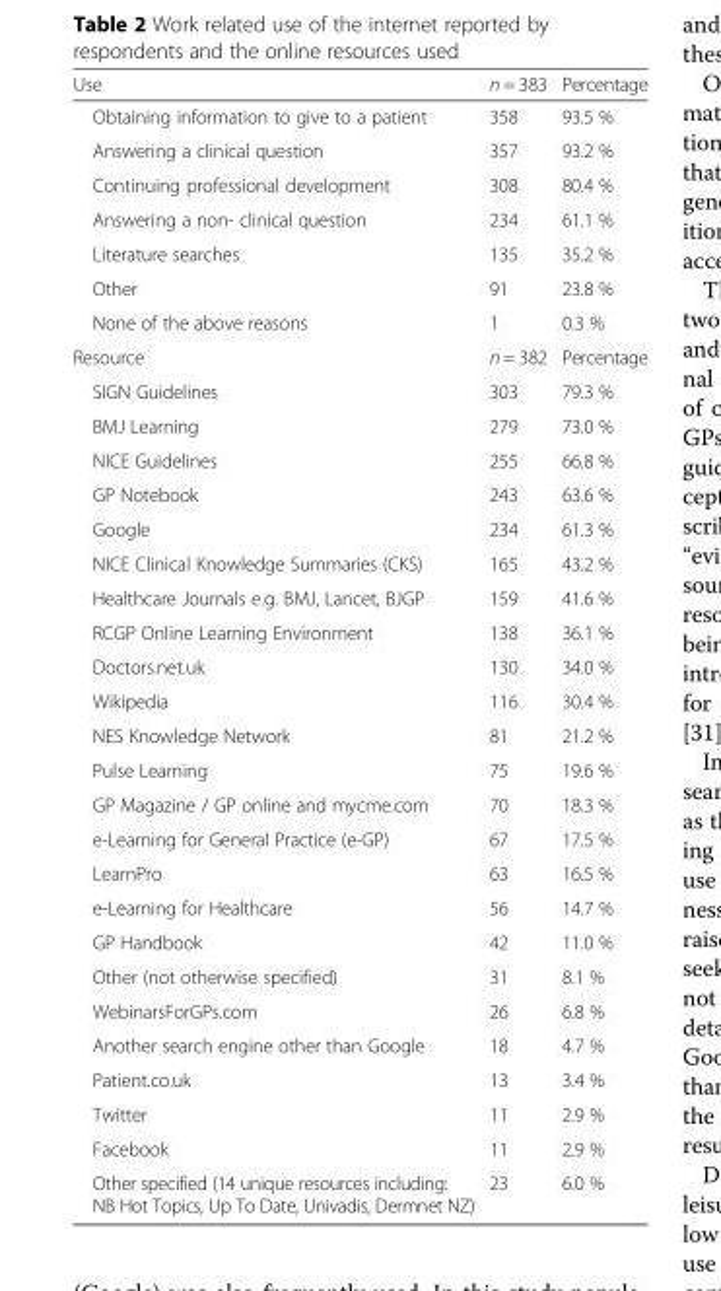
<table><thead><tr><td>Use</td><td>n = 383</td><td>Percentage</td></tr></thead><tbody><tr><td>Obtaining information to give to a patient</td><td>358</td><td>93.5 %</td></tr><tr><td>Answering a clinical question</td><td>357</td><td>93.2 %</td></tr><tr><td>Continuing professional development</td><td>308</td><td>80.4 %</td></tr><tr><td>Answering a non- clinical question</td><td>234</td><td>61.1 %</td></tr><tr><td>Literature searches</td><td>135</td><td>35.2 %</td></tr><tr><td>Other</td><td>91</td><td>23.8 %</td></tr><tr><td>None of the above reasons</td><td>1</td><td>0.3 %</td></tr><tr><td>Resource</td><td>n = 382</td><td>Percentage</td></tr><tr><td>SIGN Guidelines</td><td>303</td><td>79.3 %</td></tr><tr><td>BMJ Learning</td><td>279</td><td>73.0 %</td></tr><tr><td>NICE Guidelines</td><td>255</td><td>66.8 %</td></tr><tr><td>GP Notebook</td><td>243</td><td>63.6 %</td></tr><tr><td>Google</td><td>234</td><td>61.3 %</td></tr><tr><td>NICE Clinical Knowledge Summaries (CKS)</td><td>165</td><td>43.2 %</td></tr><tr><td>Healthcare Journals e.g. BMJ, Lancet, BJGP</td><td>159</td><td>41.6 %</td></tr><tr><td>RCGP Online Learning Environment</td><td>138</td><td>36.1 %</td></tr><tr><td>Doctors.net.uk</td><td>130</td><td>34.0 %</td></tr><tr><td>Wikipedia</td><td>116</td><td>30.4 %</td></tr><tr><td>NES Knowledge Network</td><td>81</td><td>21.2 %</td></tr><tr><td>Pulse Learning</td><td>75</td><td>19.6 %</td></tr><tr><td>GP Magazine / GP online and mycme.com</td><td>70</td><td>18.3 %</td></tr><tr><td>e-Learning for General Practice (e-GP)</td><td>67</td><td>17.5 %</td></tr><tr><td>LearnPro</td><td>63</td><td>16.5 %</td></tr><tr><td>e-Learning for Healthcare</td><td>56</td><td>14.7 %</td></tr><tr><td>GP Handbook</td><td>42</td><td>11.0 %</td></tr><tr><td>Other (not otherwise specified)</td><td>31</td><td>8.1 %</td></tr><tr><td>WebinarsForGPs.com</td><td>26</td><td>6.8 %</td></tr><tr><td>Another search engine other than Google</td><td>18</td><td>4.7 %</td></tr><tr><td>Patient.co.uk</td><td>13</td><td>3.4 %</td></tr><tr><td>Twitter</td><td>11</td><td>2.9 %</td></tr><tr><td>Facebook</td><td>11</td><td>2.9 %</td></tr><tr><td>Other specified (14 unique resources including: NB Hot Topics, Up To Date, Univadis, Dermnet NZ)</td><td>23</td><td>6.0 %</td></tr></tbody></table>